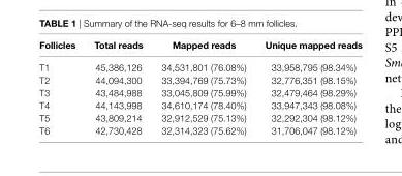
<table><thead><tr><td>Follicles</td><td>Total reads</td><td>Mapped reads</td><td>Unique mapped reads</td></tr></thead><tbody><tr><td>T1</td><td>45,386,126</td><td>34,531,801 (76.08%)</td><td>33,958,795 (98.34%)</td></tr><tr><td>T2</td><td>44,094,300</td><td>33,394,769 (75.73%)</td><td>32,776,351 (98.15%)</td></tr><tr><td>T3</td><td>43,484,988</td><td>33,045,809 (75.99%)</td><td>32,479,464 (98.29%)</td></tr><tr><td>T4</td><td>44,143,998</td><td>34,610,174 (78.40%)</td><td>33,947,343 (98.08%)</td></tr><tr><td>T5</td><td>43,809,214</td><td>32,912,529 (75.13%)</td><td>32,292,304 (98.12%)</td></tr><tr><td>T6</td><td>42,730,428</td><td>32,314,323 (75.62%)</td><td>31,706,047 (98.12%)</td></tr></tbody></table>